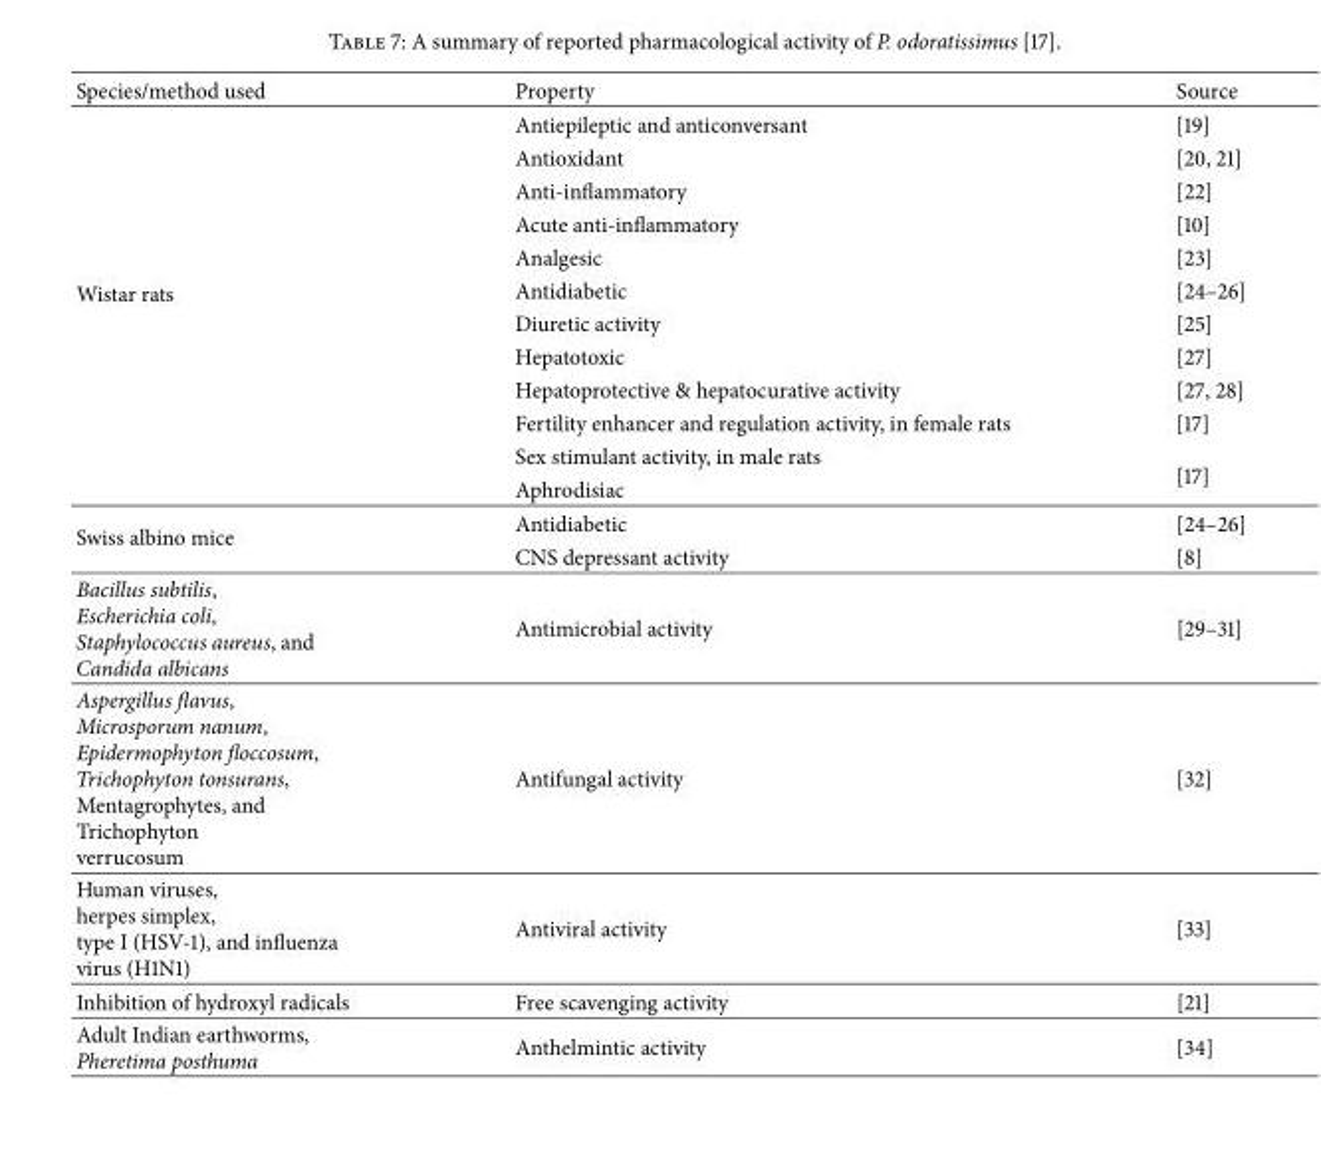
<table><thead><tr><td>Species/method used</td><td>Property</td><td>Source</td></tr></thead><tbody><tr><td rowspan="12">Wistar rats</td><td>Antiepileptic and anticonversant</td><td>[19]</td></tr><tr><td>Antioxidant</td><td>[20, 21]</td></tr><tr><td>Anti-inflammatory</td><td>[22]</td></tr><tr><td>Acute anti-inflammatory</td><td>[10]</td></tr><tr><td>Analgesic</td><td>[23]</td></tr><tr><td>Antidiabetic</td><td>[24–26]</td></tr><tr><td>Diuretic activity</td><td>[25]</td></tr><tr><td>Hepatotoxic</td><td>[27]</td></tr><tr><td>Hepatoprotective &amp; hepatocurative activity</td><td>[27, 28]</td></tr><tr><td>Fertility enhancer and regulation activity, in female rats</td><td>[17]</td></tr><tr><td>Sex stimulant activity, in male rats</td><td rowspan="2">[17]</td></tr><tr><td>Aphrodisiac</td></tr><tr><td rowspan="2">Swiss albino mice</td><td>Antidiabetic</td><td>[24–26]</td></tr><tr><td>CNS depressant activity</td><td>[8]</td></tr><tr><td>Bacillus subtilis, Escherichia coli, Staphylococcus aureus, and Candida albicans</td><td>Antimicrobial activity</td><td>[29–31]</td></tr><tr><td>Aspergillus flavus, Microsporum nanum, Epidermophyton floccosum, Trichophyton tonsurans, Mentagrophytes, and Trichophyton verrucosum</td><td>Antifungal activity</td><td>[32]</td></tr><tr><td>Human viruses, herpes simplex, type I (HSV-1), and influenza virus (H1N1)</td><td>Antiviral activity</td><td>[33]</td></tr><tr><td>Inhibition of hydroxyl radicals</td><td>Free scavenging activity</td><td>[21]</td></tr><tr><td>Adult Indian earthworms, Pheretima posthuma</td><td>Anthelmintic activity</td><td>[34]</td></tr></tbody></table>